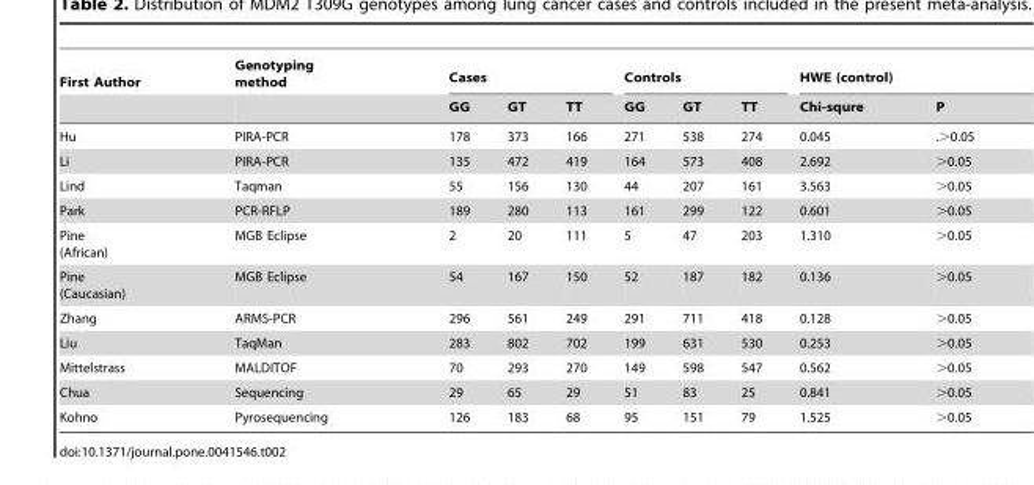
<table><thead><tr><td rowspan="2">First Author</td><td rowspan="2">Genotyping method</td><td colspan="3">Cases</td><td colspan="3">Controls</td><td colspan="2">HWE (control)</td></tr><tr><td>GG</td><td>GT</td><td>TT</td><td>GG</td><td>GT</td><td>TT</td><td>Chi-squre</td><td>P</td></tr></thead><tbody><tr><td>Hu</td><td>PIRA-PCR</td><td>178</td><td>373</td><td>166</td><td>271</td><td>538</td><td>274</td><td>0.045</td><td>.&gt;0.05</td></tr><tr><td>Li</td><td>PIRA-PCR</td><td>135</td><td>472</td><td>419</td><td>164</td><td>573</td><td>408</td><td>2.692</td><td>&gt;0.05</td></tr><tr><td>Lind</td><td>Taqman</td><td>55</td><td>156</td><td>130</td><td>44</td><td>207</td><td>161</td><td>3.563</td><td>&gt;0.05</td></tr><tr><td>Park</td><td>PCR-RFLP</td><td>189</td><td>280</td><td>113</td><td>161</td><td>299</td><td>122</td><td>0.601</td><td>&gt;0.05</td></tr><tr><td>Pine (African)</td><td>MGB Eclipse</td><td>2</td><td>20</td><td>111</td><td>5</td><td>47</td><td>203</td><td>1.310</td><td>&gt;0.05</td></tr><tr><td>Pine (Caucasian)</td><td>MGB Eclipse</td><td>54</td><td>167</td><td>150</td><td>52</td><td>187</td><td>182</td><td>0.136</td><td>&gt;0.05</td></tr><tr><td>Zhang</td><td>ARMS-PCR</td><td>296</td><td>561</td><td>249</td><td>291</td><td>711</td><td>418</td><td>0.128</td><td>&gt;0.05</td></tr><tr><td>Liu</td><td>TaqMan</td><td>283</td><td>802</td><td>702</td><td>199</td><td>631</td><td>530</td><td>0.253</td><td>&gt;0.05</td></tr><tr><td>Mittelstrass</td><td>MALDITOF</td><td>70</td><td>293</td><td>270</td><td>149</td><td>598</td><td>547</td><td>0.562</td><td>&gt;0.05</td></tr><tr><td>Chua</td><td>Sequencing</td><td>29</td><td>65</td><td>29</td><td>51</td><td>83</td><td>25</td><td>0.841</td><td>&gt;0.05</td></tr><tr><td>Kohno</td><td>Pyrosequencing</td><td>126</td><td>183</td><td>68</td><td>95</td><td>151</td><td>79</td><td>1.525</td><td>&gt;0.05</td></tr></tbody></table>